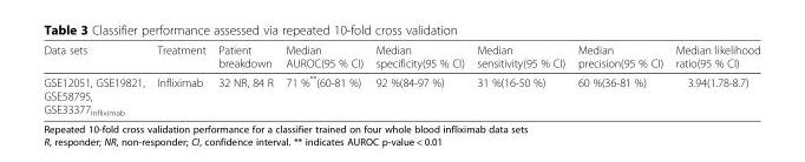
<table><thead><tr><td>Data sets</td><td>Treatment</td><td>Patient breakdown</td><td>Median AUROC(95 % CI)</td><td>Median specificity(95 % CI)</td><td>Median sensitivity(95 % CI)</td><td>Median precision(95 % CI)</td><td>Median likelihood ratio(95 % CI)</td></tr></thead><tbody><tr><td>GSE12051, GSE19821, GSE58795, GSE33377<sub>infliximab</sub></td><td>Infliximab</td><td>32 NR, 84 R</td><td>71 %**(60-81 %)</td><td>92 %(84-97 %)</td><td>31 %(16-50 %)</td><td>60 %(36-81 %)</td><td>3.94(1.78-8.7)</td></tr></tbody></table>